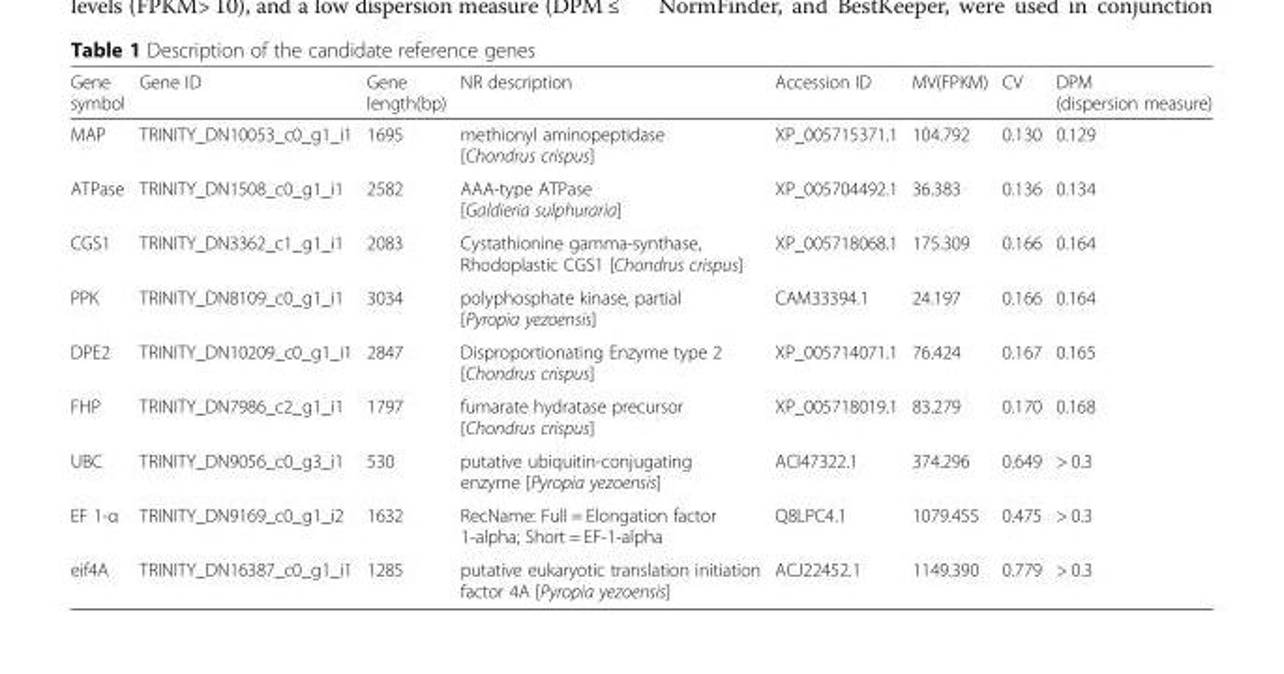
<table><thead><tr><td>Gene symbol</td><td>Gene ID</td><td>Gene length(bp)</td><td>NR description</td><td>Accession ID</td><td>MV(FPKM)</td><td>CV</td><td>DPM (dispersion measure)</td></tr></thead><tbody><tr><td>MAP</td><td>TRINITY_DN10053_c0_g1_i1</td><td>1695</td><td>methionyl aminopeptidase [Chondrus crispus]</td><td>XP_005715371.1</td><td>104.792</td><td>0.130</td><td>0.129</td></tr><tr><td>ATPase</td><td>TRINITY_DN1508_c0_g1_i1</td><td>2582</td><td>AAA-type ATPase [Galdieria sulphuraria]</td><td>XP_005704492.1</td><td>36.383</td><td>0.136</td><td>0.134</td></tr><tr><td>CGS1</td><td>TRINITY_DN3362_c1_g1_i1</td><td>2083</td><td>Cystathionine gamma-synthase, Rhodoplastic CGS1 [Chondrus crispus]</td><td>XP_005718068.1</td><td>175.309</td><td>0.166</td><td>0.164</td></tr><tr><td>PPK</td><td>TRINITY_DN8109_c0_g1_i1</td><td>3034</td><td>polyphosphate kinase, partial [Pyropia yezoensis]</td><td>CAM33394.1</td><td>24.197</td><td>0.166</td><td>0.164</td></tr><tr><td>DPE2</td><td>TRINITY_DN10209_c0_g1_i1</td><td>2847</td><td>Disproportionating Enzyme type 2 [Chondrus crispus]</td><td>XP_005714071.1</td><td>76.424</td><td>0.167</td><td>0.165</td></tr><tr><td>FHP</td><td>TRINITY_DN7986_c2_g1_i1</td><td>1797</td><td>fumarate hydratase precursor [Chondrus crispus]</td><td>XP_005718019.1</td><td>83.279</td><td>0.170</td><td>0.168</td></tr><tr><td>UBC</td><td>TRINITY_DN9056_c0_g3_i1</td><td>530</td><td>putative ubiquitin-conjugating enzyme [Pyropia yezoensis]</td><td>ACI47322.1</td><td>374.296</td><td>0.649</td><td>&gt; 0.3</td></tr><tr><td>EF 1-α</td><td>TRINITY_DN9169_c0_g1_i2</td><td>1632</td><td>RecName: Full = Elongation factor 1-alpha; Short = EF-1-alpha</td><td>Q8LPC4.1</td><td>1079.455</td><td>0.475</td><td>&gt; 0.3</td></tr><tr><td>eif4A</td><td>TRINITY_DN16387_c0_g1_i1</td><td>1285</td><td>putative eukaryotic translation initiation factor 4A [Pyropia yezoensis]</td><td>ACJ22452.1</td><td>1149.390</td><td>0.779</td><td>&gt; 0.3</td></tr></tbody></table>